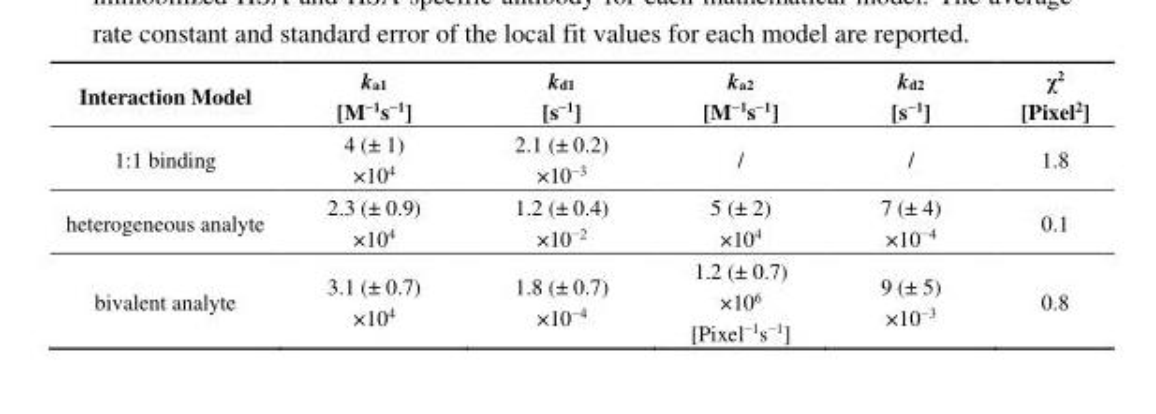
<table><thead><tr><td>Interaction Model</td><td>k<sub>a1</sub> [M<sup>−1</sup>s<sup>−1</sup>]</td><td>k<sub>d1</sub> [s<sup>−1</sup>]</td><td>k<sub>a2</sub> [M<sup>−1</sup>s<sup>−1</sup>]</td><td>k<sub>d2</sub> [s<sup>−1</sup>]</td><td>χ<sup>2</sup> [Pixel<sup>2</sup>]</td></tr></thead><tbody><tr><td>1:1 binding</td><td>4 (± 1) ×10<sup>4</sup></td><td>2.1 (± 0.2) ×10<sup>−3</sup></td><td>/</td><td>/</td><td>1.8</td></tr><tr><td>heterogeneous analyte</td><td>2.3 (± 0.9) ×10<sup>4</sup></td><td>1.2 (± 0.4) ×10<sup>−2</sup></td><td>5 (± 2) ×10<sup>4</sup></td><td>7 (± 4) ×10<sup>−4</sup></td><td>0.1</td></tr><tr><td>bivalent analyte</td><td>3.1 (± 0.7) ×10<sup>4</sup></td><td>1.8 (± 0.7) ×10<sup>−4</sup></td><td>1.2 (± 0.7) ×10<sup>6</sup> [Pixel<sup>−1</sup>s<sup>−1</sup>]</td><td>9 (± 5) ×10<sup>−3</sup></td><td>0.8</td></tr></tbody></table>